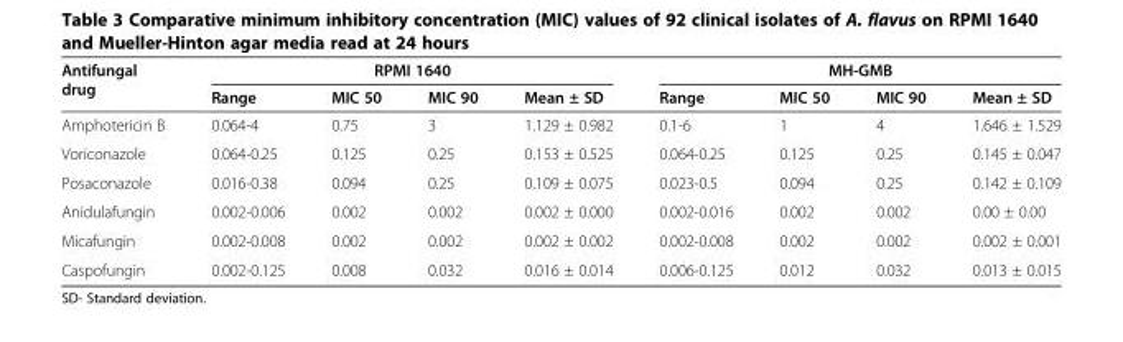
<table><thead><tr><td rowspan="2">Antifungal drug</td><td colspan="4">RPMI 1640</td><td colspan="4">MH-GMB</td></tr><tr><td>Range</td><td>MIC 50</td><td>MIC 90</td><td>Mean ± SD</td><td>Range</td><td>MIC 50</td><td>MIC 90</td><td>Mean ± SD</td></tr></thead><tbody><tr><td>Amphotericin B</td><td>0.064-4</td><td>0.75</td><td>3</td><td>1.129 ± 0.982</td><td>0.1-6</td><td>1</td><td>4</td><td>1.646 ± 1.529</td></tr><tr><td>Voriconazole</td><td>0.064-0.25</td><td>0.125</td><td>0.25</td><td>0.153 ± 0.525</td><td>0.064-0.25</td><td>0.125</td><td>0.25</td><td>0.145 ± 0.047</td></tr><tr><td>Posaconazole</td><td>0.016-0.38</td><td>0.094</td><td>0.25</td><td>0.109 ± 0.075</td><td>0.023-0.5</td><td>0.094</td><td>0.25</td><td>0.142 ± 0.109</td></tr><tr><td>Anidulafungin</td><td>0.002-0.006</td><td>0.002</td><td>0.002</td><td>0.002 ± 0.000</td><td>0.002-0.016</td><td>0.002</td><td>0.002</td><td>0.00 ± 0.00</td></tr><tr><td>Micafungin</td><td>0.002-0.008</td><td>0.002</td><td>0.002</td><td>0.002 ± 0.002</td><td>0.002-0.008</td><td>0.002</td><td>0.002</td><td>0.002 ± 0.001</td></tr><tr><td>Caspofungin</td><td>0.002-0.125</td><td>0.008</td><td>0.032</td><td>0.016 ± 0.014</td><td>0.006-0.125</td><td>0.012</td><td>0.032</td><td>0.013 ± 0.015</td></tr></tbody></table>